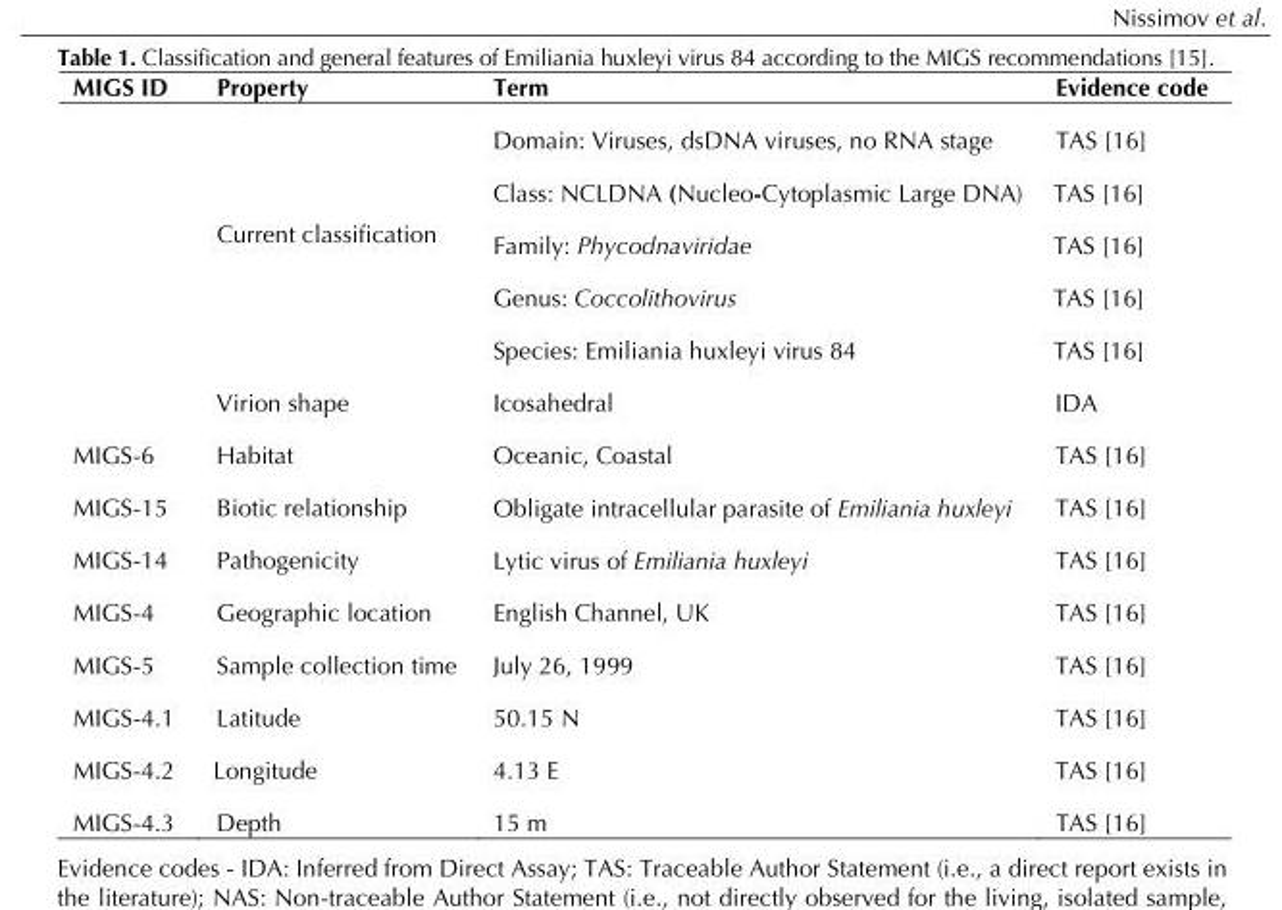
<table><thead><tr><td>MIGS ID</td><td>Property</td><td>Term</td><td>Evidence code</td></tr></thead><tbody><tr><td></td><td>Current classification</td><td>Domain: Viruses, dsDNA viruses, no RNA stage Class: NCLDNA (Nucleo-Cytoplasmic Large DNA) Family: Phycodnaviridae Genus: Coccolithovirus Species: Emiliania huxleyi virus 84</td><td>TAS [16] TAS [16] TAS [16] TAS [16] TAS [16]</td></tr><tr><td></td><td>Virion shape</td><td>Icosahedral</td><td>IDA</td></tr><tr><td>MIGS-6</td><td>Habitat</td><td>Oceanic, Coastal</td><td>TAS [16]</td></tr><tr><td>MIGS-15</td><td>Biotic relationship</td><td>Obligate intracellular parasite of Emiliania huxleyi</td><td>TAS [16]</td></tr><tr><td>MIGS-14</td><td>Pathogenicity</td><td>Lytic virus of Emiliania huxleyi</td><td>TAS [16]</td></tr><tr><td>MIGS-4</td><td>Geographic location</td><td>English Channel, UK</td><td>TAS [16]</td></tr><tr><td>MIGS-5</td><td>Sample collection time</td><td>July 26, 1999</td><td>TAS [16]</td></tr><tr><td>MIGS-4.1 MIGS-4.2</td><td>Latitude Longitude</td><td>50.15 N 4.13 E</td><td>TAS [16] TAS [16]</td></tr><tr><td>MIGS-4.3</td><td>Depth</td><td>15 m</td><td>TAS [16]</td></tr></tbody></table>